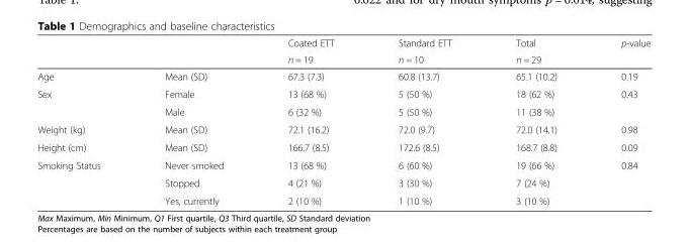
<table><thead><tr><td rowspan="2"></td><td rowspan="2"></td><td rowspan="2">Coated ETT n = 19</td><td rowspan="2">Standard ETT n = 10</td><td rowspan="2">Total n = 29</td><td rowspan="2">p-value</td></tr><tr></tr></thead><tbody><tr><td>Age</td><td>Mean (SD)</td><td>67.3 (7.3)</td><td>60.8 (13.7)</td><td>65.1 (10.2)</td><td>0.19</td></tr><tr><td rowspan="2">Sex</td><td>Female</td><td>13 (68 %)</td><td>5 (50 %)</td><td>18 (62 %)</td><td rowspan="2">0.43</td></tr><tr><td>Male</td><td>6 (32 %)</td><td>5 (50 %)</td><td>11 (38 %)</td></tr><tr><td>Weight (kg)</td><td>Mean (SD)</td><td>72.1 (16.2)</td><td>72.0 (9.7)</td><td>72.0 (14.1)</td><td>0.98</td></tr><tr><td>Height (cm)</td><td>Mean (SD)</td><td>166.7 (8.5)</td><td>172.6 (8.5)</td><td>168.7 (8.8)</td><td>0.09</td></tr><tr><td rowspan="3">Smoking Status</td><td>Never smoked</td><td>13 (68 %)</td><td>6 (60 %)</td><td>19 (66 %)</td><td rowspan="3">0.84</td></tr><tr><td>Stopped</td><td>4 (21 %)</td><td>3 (30 %)</td><td>7 (24 %)</td></tr><tr><td>Yes, currently</td><td>2 (10 %)</td><td>1 (10 %)</td><td>3 (10 %)</td></tr></tbody></table>